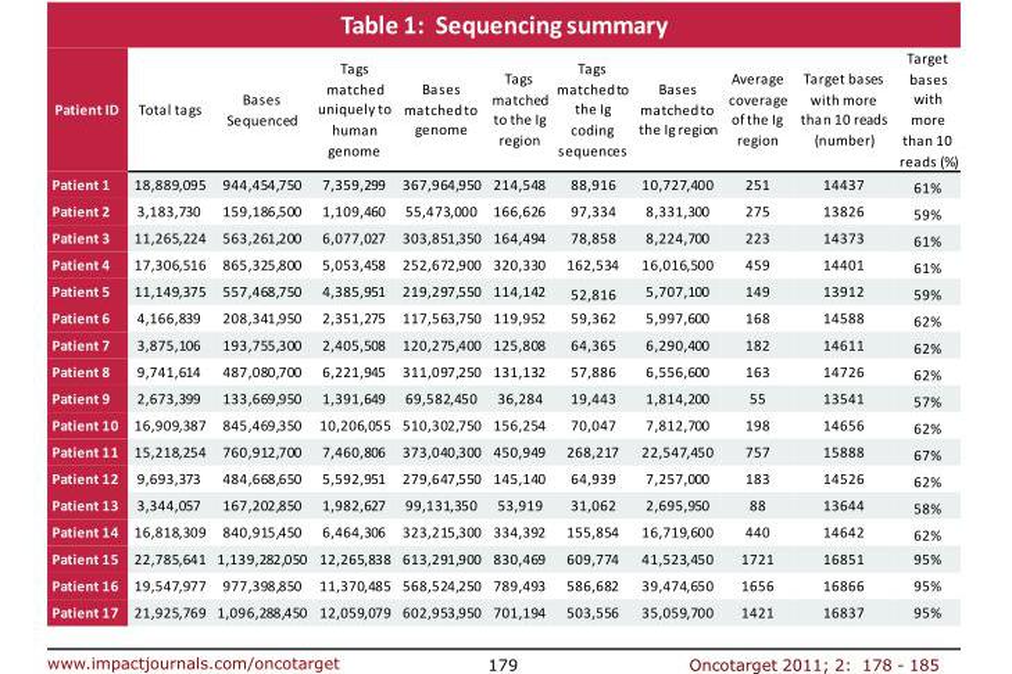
<table><thead><tr><td>Patient ID</td><td>Total tags</td><td>Bases Sequenced</td><td>Tags matched uniquely to human genome</td><td>Bases matched to genome</td><td>Tags matched to the Ig region</td><td>Tags matched to the Ig coding sequences</td><td>Bases matched to the Ig region</td><td>Average coverage of the Ig region</td><td>Target bases with more than 10 reads (number)</td><td>Target bases with more than 10 reads (%)</td></tr></thead><tbody><tr><td>Patient 1</td><td>18,889,095</td><td>944,454,750</td><td>7,359,299</td><td>367,964,950</td><td>214,548</td><td>88,916</td><td>10,727,400</td><td>251</td><td>14437</td><td>61%</td></tr><tr><td>Patient 2</td><td>3,183,730</td><td>159,186,500</td><td>1,109,460</td><td>55,473,000</td><td>166,626</td><td>97,334</td><td>8,331,300</td><td>275</td><td>13826</td><td>59%</td></tr><tr><td>Patient 3</td><td>11,265,224</td><td>563,261,200</td><td>6,077,027</td><td>303,851,350</td><td>164,494</td><td>78,858</td><td>8,224,700</td><td>223</td><td>14373</td><td>61%</td></tr><tr><td>Patient 4</td><td>17,306,516</td><td>865,325,800</td><td>5,053,458</td><td>252,672,900</td><td>320,330</td><td>162,534</td><td>16,016,500</td><td>459</td><td>14401</td><td>61%</td></tr><tr><td>Patient 5</td><td>11,149,375</td><td>557,468,750</td><td>4,385,951</td><td>219,297,550</td><td>114,142</td><td>52,816</td><td>5,707,100</td><td>149</td><td>13912</td><td>59%</td></tr><tr><td>Patient 6</td><td>4,166,839</td><td>208,341,950</td><td>2,351,275</td><td>117,563,750</td><td>119,952</td><td>59,362</td><td>5,997,600</td><td>168</td><td>14588</td><td>62%</td></tr><tr><td>Patient 7</td><td>3,875,106</td><td>193,755,300</td><td>2,405,508</td><td>120,275,400</td><td>125,808</td><td>64,365</td><td>6,290,400</td><td>182</td><td>14611</td><td>62%</td></tr><tr><td>Patient 8</td><td>9,741,614</td><td>487,080,700</td><td>6,221,945</td><td>311,097,250</td><td>131,132</td><td>57,886</td><td>6,556,600</td><td>163</td><td>14726</td><td>62%</td></tr><tr><td>Patient 9</td><td>2,673,399</td><td>133,669,950</td><td>1,391,649</td><td>69,582,450</td><td>36,284</td><td>19,443</td><td>1,814,200</td><td>55</td><td>13541</td><td>57%</td></tr><tr><td>Patient 10</td><td>16,909,387</td><td>845,469,350</td><td>10,206,055</td><td>510,302,750</td><td>156,254</td><td>70,047</td><td>7,812,700</td><td>198</td><td>14656</td><td>62%</td></tr><tr><td>Patient 11</td><td>15,218,254</td><td>760,912,700</td><td>7,460,806</td><td>373,040,300</td><td>450,949</td><td>268,217</td><td>22,547,450</td><td>757</td><td>15888</td><td>67%</td></tr><tr><td>Patient 12</td><td>9,693,373</td><td>484,668,650</td><td>5,592,951</td><td>279,647,550</td><td>145,140</td><td>64,939</td><td>7,257,000</td><td>183</td><td>14526</td><td>62%</td></tr><tr><td>Patient 13</td><td>3,344,057</td><td>167,202,850</td><td>1,982,627</td><td>99,131,350</td><td>53,919</td><td>31,062</td><td>2,695,950</td><td>88</td><td>13644</td><td>58%</td></tr><tr><td>Patient 14</td><td>16,818,309</td><td>840,915,450</td><td>6,464,306</td><td>323,215,300</td><td>334,392</td><td>155,854</td><td>16,719,600</td><td>440</td><td>14642</td><td>62%</td></tr><tr><td>Patient 15</td><td>22,785,641</td><td>1,139,282,050</td><td>12,265,838</td><td>613,291,900</td><td>830,469</td><td>609,774</td><td>41,523,450</td><td>1721</td><td>16851</td><td>95%</td></tr><tr><td>Patient 16</td><td>19,547,977</td><td>977,398,850</td><td>11,370,485</td><td>568,524,250</td><td>789,493</td><td>586,682</td><td>39,474,650</td><td>1656</td><td>16866</td><td>95%</td></tr><tr><td>Patient 17</td><td>21,925,769</td><td>1,096,288,450</td><td>12,059,079</td><td>602,953,950</td><td>701,194</td><td>503,556</td><td>35,059,700</td><td>1421</td><td>16837</td><td>95%</td></tr></tbody></table>